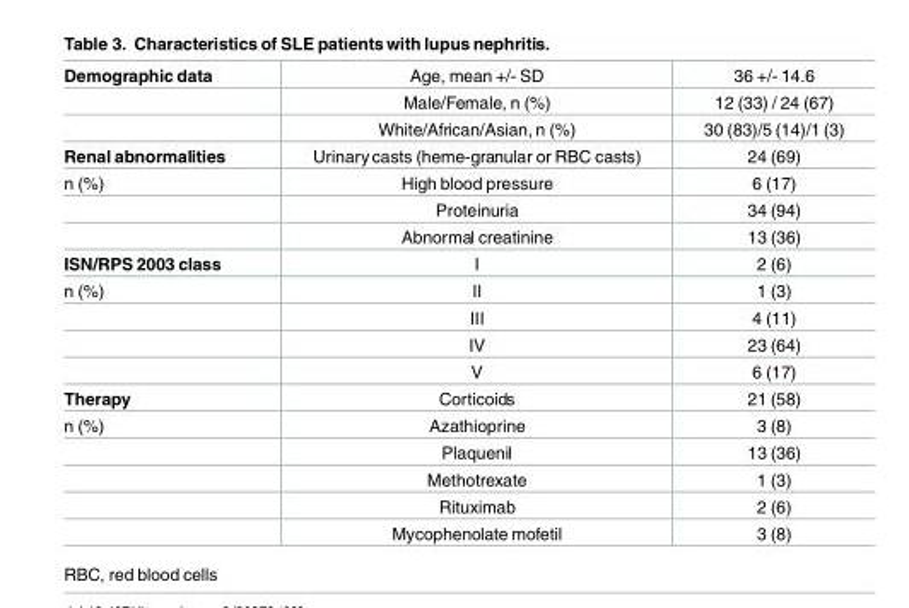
<table><tbody><tr><td rowspan="3">Demographic data</td><td>Age, mean +/- SD</td><td>36 +/- 14.6</td></tr><tr><td>Male/Female, n (%)</td><td>12 (33) / 24 (67)</td></tr><tr><td>White/African/Asian, n (%)</td><td>30 (83)/5 (14)/1 (3)</td></tr><tr><td>Renal abnormalities</td><td>Urinarycasts (heme-granular or RBC casts)</td><td>24 (69)</td></tr><tr><td rowspan="3">n (%)</td><td>High blood pressure</td><td>6 (17)</td></tr><tr><td>Proteinuria</td><td>34 (94)</td></tr><tr><td>Abnormal creatinine</td><td>13 (36)</td></tr><tr><td>ISN/RPS 2003 class</td><td>I</td><td>2 (6)</td></tr><tr><td rowspan="4">n (%)</td><td>II</td><td>1 (3)</td></tr><tr><td>III</td><td>4 (11)</td></tr><tr><td>IV</td><td>23 (64)</td></tr><tr><td>V</td><td>6 (17)</td></tr><tr><td>Therapy</td><td>Corticoids</td><td>21 (58)</td></tr><tr><td rowspan="5">n (%)</td><td>Azathioprine</td><td>3 (8)</td></tr><tr><td>Plaquenil</td><td>13 (36)</td></tr><tr><td>Methotrexate</td><td>1 (3)</td></tr><tr><td>Rituximab</td><td>2 (6)</td></tr><tr><td>Mycophenolate mofetil</td><td>3 (8)</td></tr></tbody></table>